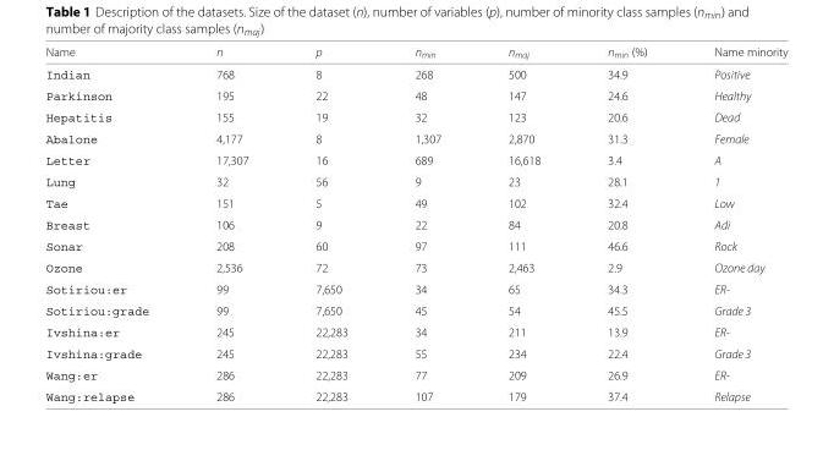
<table><thead><tr><td>Name</td><td>n</td><td>p</td><td>n<sub>min</sub></td><td>n<sub>maj</sub></td><td>n<sub>min</sub> (%)</td><td>Name minority</td></tr></thead><tbody><tr><td>Indian</td><td>768</td><td>8</td><td>268</td><td>500</td><td>34.9</td><td>Positive</td></tr><tr><td>Parkinson</td><td>195</td><td>22</td><td>48</td><td>147</td><td>24.6</td><td>Healthy</td></tr><tr><td>Hepatitis</td><td>155</td><td>19</td><td>32</td><td>123</td><td>20.6</td><td>Dead</td></tr><tr><td>Abalone</td><td>4,177</td><td>8</td><td>1,307</td><td>2,870</td><td>31.3</td><td>Female</td></tr><tr><td>Letter</td><td>17,307</td><td>16</td><td>689</td><td>16,618</td><td>3.4</td><td>A</td></tr><tr><td>Lung</td><td>32</td><td>56</td><td>9</td><td>23</td><td>28.1</td><td>1</td></tr><tr><td>Tae</td><td>151</td><td>5</td><td>49</td><td>102</td><td>32.4</td><td>Low</td></tr><tr><td>Breast</td><td>106</td><td>9</td><td>22</td><td>84</td><td>20.8</td><td>Adi</td></tr><tr><td>Sonar</td><td>208</td><td>60</td><td>97</td><td>111</td><td>46.6</td><td>Rock</td></tr><tr><td>Ozone</td><td>2,536</td><td>72</td><td>73</td><td>2,463</td><td>2.9</td><td>Ozone day</td></tr><tr><td>Sotiriou:er</td><td>99</td><td>7,650</td><td>34</td><td>65</td><td>34.3</td><td>ER-</td></tr><tr><td>Sotiriou:grade</td><td>99</td><td>7,650</td><td>45</td><td>54</td><td>45.5</td><td>Grade 3</td></tr><tr><td>Ivshina:er</td><td>245</td><td>22,283</td><td>34</td><td>211</td><td>13.9</td><td>ER-</td></tr><tr><td>Ivshina:grade</td><td>245</td><td>22,283</td><td>55</td><td>234</td><td>22.4</td><td>Grade 3</td></tr><tr><td>Wang:er</td><td>286</td><td>22,283</td><td>77</td><td>209</td><td>26.9</td><td>ER-</td></tr><tr><td>Wang:relapse</td><td>286</td><td>22,283</td><td>107</td><td>179</td><td>37.4</td><td>Relapse</td></tr></tbody></table>